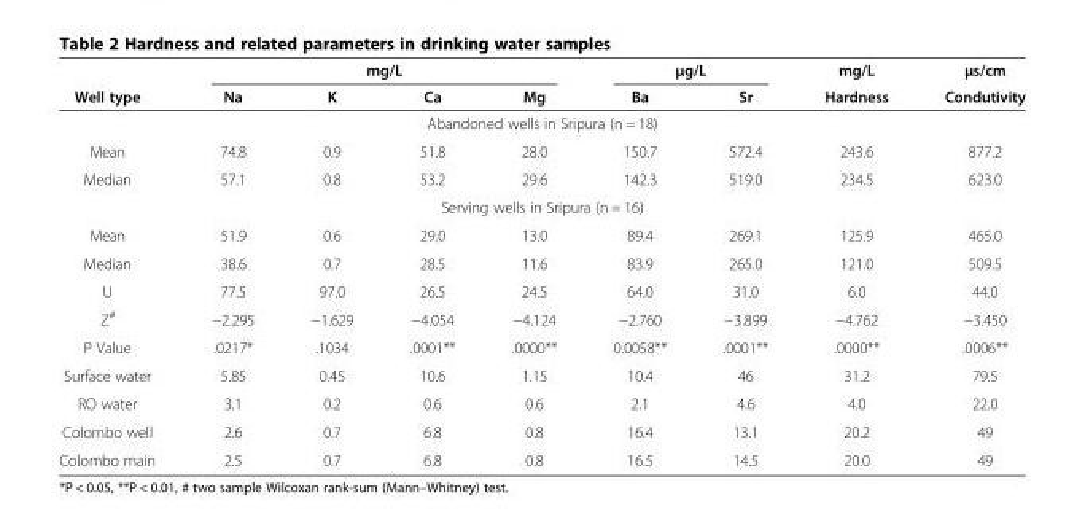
<table><thead><tr><td rowspan="2">Well type</td><td colspan="4">mg/L</td><td colspan="2">μg/L</td><td rowspan="2">mg/L Hardness</td><td rowspan="2">μs/cm Condutivity</td></tr><tr><td>Na</td><td>K</td><td>Ca</td><td>Mg</td><td>Ba</td><td>Sr</td></tr></thead><tbody><tr><td colspan="9">Abandoned wells in Sripura (n = 18)</td></tr><tr><td>Mean</td><td>74.8</td><td>0.9</td><td>51.8</td><td>28.0</td><td>150.7</td><td>572.4</td><td>243.6</td><td>877.2</td></tr><tr><td>Median</td><td>57.1</td><td>0.8</td><td>53.2</td><td>29.6</td><td>142.3</td><td>519.0</td><td>234.5</td><td>623.0</td></tr><tr><td colspan="9">Serving wells in Sripura (n = 16)</td></tr><tr><td>Mean</td><td>51.9</td><td>0.6</td><td>29.0</td><td>13.0</td><td>89.4</td><td>269.1</td><td>125.9</td><td>465.0</td></tr><tr><td>Median</td><td>38.6</td><td>0.7</td><td>28.5</td><td>11.6</td><td>83.9</td><td>265.0</td><td>121.0</td><td>509.5</td></tr><tr><td>U</td><td>77.5</td><td>97.0</td><td>26.5</td><td>24.5</td><td>64.0</td><td>31.0</td><td>6.0</td><td>44.0</td></tr><tr><td>Z<sup>#</sup></td><td>−2.295</td><td>−1.629</td><td>−4.054</td><td>−4.124</td><td>−2.760</td><td>−3.899</td><td>−4.762</td><td>−3.450</td></tr><tr><td>P Value</td><td>.0217*</td><td>.1034</td><td>.0001**</td><td>.0000**</td><td>0.0058**</td><td>.0001**</td><td>.0000**</td><td>.0006**</td></tr><tr><td>Surface water</td><td>5.85</td><td>0.45</td><td>10.6</td><td>1.15</td><td>10.4</td><td>46</td><td>31.2</td><td>79.5</td></tr><tr><td>RO water</td><td>3.1</td><td>0.2</td><td>0.6</td><td>0.6</td><td>2.1</td><td>4.6</td><td>4.0</td><td>22.0</td></tr><tr><td>Colombo well</td><td>2.6</td><td>0.7</td><td>6.8</td><td>0.8</td><td>16.4</td><td>13.1</td><td>20.2</td><td>49</td></tr><tr><td>Colombo main</td><td>2.5</td><td>0.7</td><td>6.8</td><td>0.8</td><td>16.5</td><td>14.5</td><td>20.0</td><td>49</td></tr></tbody></table>